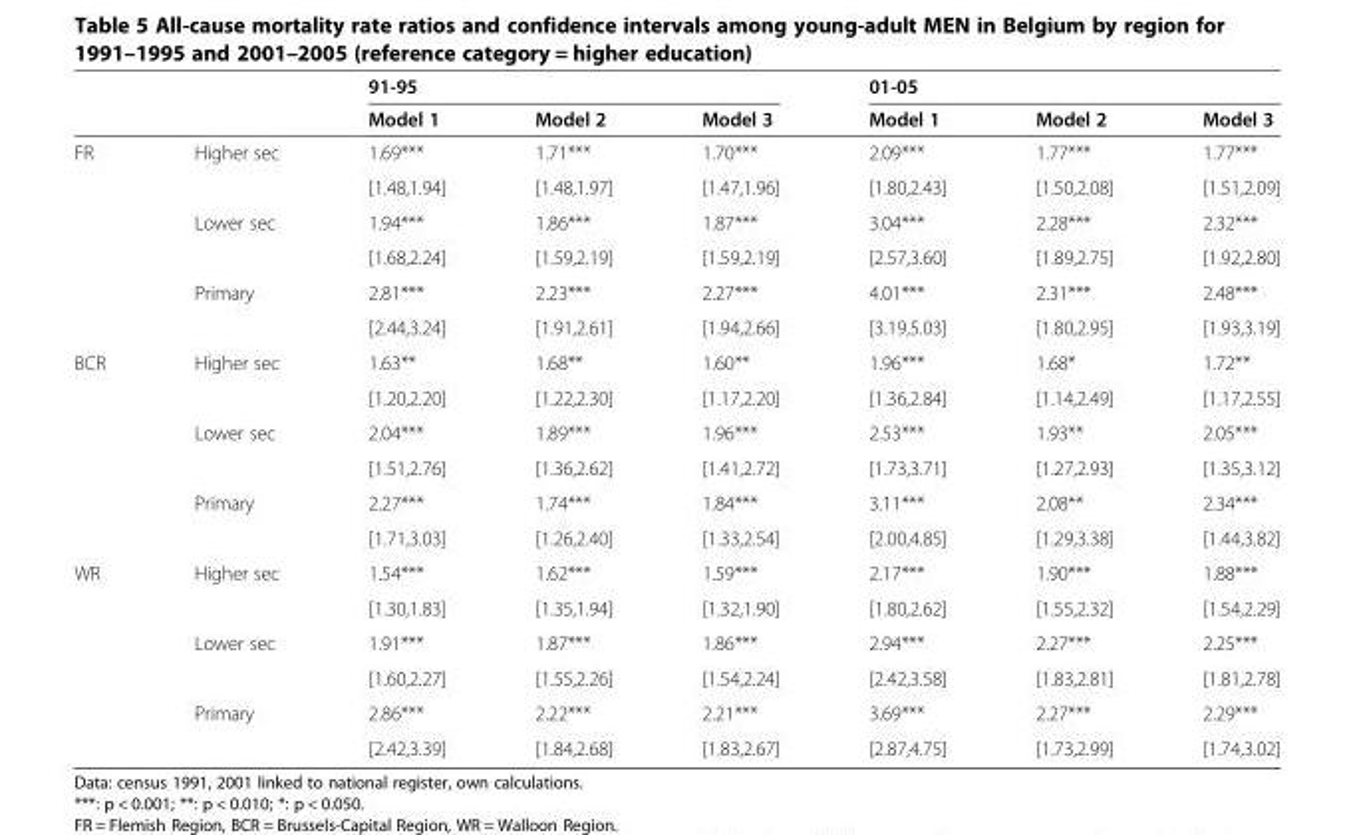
<table><thead><tr><td rowspan="2"></td><td rowspan="2"></td><td colspan="3">91-95</td><td colspan="3">01-05</td></tr><tr><td>Model 1</td><td>Model 2</td><td>Model 3</td><td>Model 1</td><td>Model 2</td><td>Model 3</td></tr></thead><tbody><tr><td rowspan="6">FR</td><td>Higher sec</td><td>1.69***</td><td>1.71***</td><td>1.70***</td><td>2.09***</td><td>1.77***</td><td>1.77***</td></tr><tr><td></td><td>[1.48,1.94]</td><td>[1.48,1.97]</td><td>[1.47,1.96]</td><td>[1.80,2.43]</td><td>[1.50,2.08]</td><td>[1.51,2.09]</td></tr><tr><td>Lower sec</td><td>1.94***</td><td>1.86***</td><td>1.87***</td><td>3.04***</td><td>2.28***</td><td>2.32***</td></tr><tr><td></td><td>[1.68,2.24]</td><td>[1.59,2.19]</td><td>[1.59,2.19]</td><td>[2.57,3.60]</td><td>[1.89,2.75]</td><td>[1.92,2.80]</td></tr><tr><td>Primary</td><td>2.81***</td><td>2.23***</td><td>2.27***</td><td>4.01***</td><td>2.31***</td><td>2.48***</td></tr><tr><td></td><td>[2.44,3.24]</td><td>[1.91,2.61]</td><td>[1.94,2.66]</td><td>[3.19,5.03]</td><td>[1.80,2.95]</td><td>[1.93,3.19]</td></tr><tr><td rowspan="6">BCR</td><td>Higher sec</td><td>1.63**</td><td>1.68**</td><td>1.60**</td><td>1.96***</td><td>1.68*</td><td>1.72**</td></tr><tr><td></td><td>[1.20,2.20]</td><td>[1.22,2.30]</td><td>[1.17,2.20]</td><td>[1.36,2.84]</td><td>[1.14,2.49]</td><td>[1.17,2.55]</td></tr><tr><td>Lower sec</td><td>2.04***</td><td>1.89***</td><td>1.96***</td><td>2.53***</td><td>1.93**</td><td>2.05***</td></tr><tr><td></td><td>[1.51,2.76]</td><td>[1.36,2.62]</td><td>[1.41,2.72]</td><td>[1.73,3.71]</td><td>[1.27,2.93]</td><td>[1.35,3.12]</td></tr><tr><td>Primary</td><td>2.27***</td><td>1.74***</td><td>1.84***</td><td>3.11***</td><td>2.08**</td><td>2.34***</td></tr><tr><td></td><td>[1.71,3.03]</td><td>[1.26,2.40]</td><td>[1.33,2.54]</td><td>[2.00,4.85]</td><td>[1.29,3.38]</td><td>[1.44,3.82]</td></tr><tr><td rowspan="6">WR</td><td>Higher sec</td><td>1.54***</td><td>1.62***</td><td>1.59***</td><td>2.17***</td><td>1.90***</td><td>1.88***</td></tr><tr><td></td><td>[1.30,1.83]</td><td>[1.35,1.94]</td><td>[1.32,1.90]</td><td>[1.80,2.62]</td><td>[1.55,2.32]</td><td>[1.54,2.29]</td></tr><tr><td>Lower sec</td><td>1.91***</td><td>1.87***</td><td>1.86***</td><td>2.94***</td><td>2.27***</td><td>2.25***</td></tr><tr><td></td><td>[1.60,2.27]</td><td>[1.55,2.26]</td><td>[1.54,2.24]</td><td>[2.42,3.58]</td><td>[1.83,2.81]</td><td>[1.81,2.78]</td></tr><tr><td>Primary</td><td>2.86***</td><td>2.22***</td><td>2.21***</td><td>3.69***</td><td>2.27***</td><td>2.29***</td></tr><tr><td></td><td>[2.42,3.39]</td><td>[1.84,2.68]</td><td>[1.83,2.67]</td><td>[2.87,4.75]</td><td>[1.73,2.99]</td><td>[1.74,3.02]</td></tr></tbody></table>